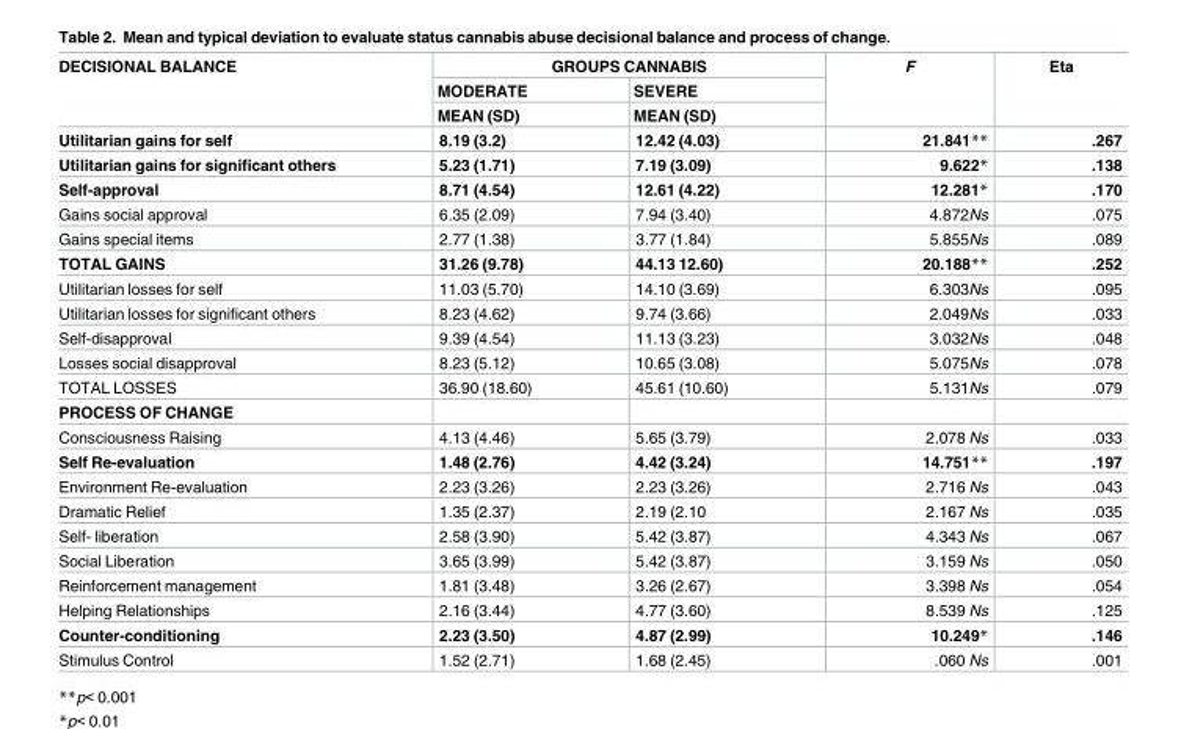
<table><thead><tr><td rowspan="3">DECISIONAL BALANCE</td><td colspan="2">GROUPS CANNABIS</td><td rowspan="3">F</td><td rowspan="3">Eta</td></tr><tr><td rowspan="2">MODERATE MEAN (SD)</td><td rowspan="2">SEVERE MEAN (SD)</td></tr><tr></tr></thead><tbody><tr><td>Utilitarian gains for self</td><td>8.19 (3.2)</td><td>12.42 (4.03)</td><td>21.841**</td><td>.267</td></tr><tr><td>Utilitarian gains for significant others</td><td>5.23 (1.71)</td><td>7.19 (3.09)</td><td>9.622*</td><td>.138</td></tr><tr><td>Self-approval</td><td>8.71 (4.54)</td><td>12.61 (4.22)</td><td>12.281*</td><td>.170</td></tr><tr><td>Gains social approval</td><td>6.35 (2.09)</td><td>7.94 (3.40)</td><td>4.872Ns</td><td>.075</td></tr><tr><td>Gains special items</td><td>2.77 (1.38)</td><td>3.77 (1.84)</td><td>5.855Ns</td><td>.089</td></tr><tr><td>TOTAL GAINS</td><td>31.26 (9.78)</td><td>44.13 12.60)</td><td>20.188**</td><td>.252</td></tr><tr><td>Utilitarian losses for self</td><td>11.03 (5.70)</td><td>14.10 (3.69)</td><td>6.303Ns</td><td>.095</td></tr><tr><td>Utilitarian losses for significant others</td><td>8.23 (4.62)</td><td>9.74 (3.66)</td><td>2.049Ns</td><td>.033</td></tr><tr><td>Self-disapproval</td><td>9.39 (4.54)</td><td>11.13 (3.23)</td><td>3.032Ns</td><td>.048</td></tr><tr><td>Losses social disapproval</td><td>8.23 (5.12)</td><td>10.65 (3.08)</td><td>5.075Ns</td><td>.078</td></tr><tr><td>TOTAL LOSSES</td><td>36.90 (18.60)</td><td>45.61 (10.60)</td><td>5.131Ns</td><td>.079</td></tr><tr><td colspan="5">PROCESS OF CHANGE</td></tr><tr><td>Consciousness Raising</td><td>4.13 (4.46)</td><td>5.65 (3.79)</td><td>2.078 Ns</td><td>.033</td></tr><tr><td>Self Re-evaluation</td><td>1.48 (2.76)</td><td>4.42 (3.24)</td><td>14.751**</td><td>.197</td></tr><tr><td>Environment Re-evaluation</td><td>2.23 (3.26)</td><td>2.23 (3.26)</td><td>2.716 Ns</td><td>.043</td></tr><tr><td>Dramatic Relief</td><td>1.35 (2.37)</td><td>2.19 (2.10</td><td>2.167 Ns</td><td>.035</td></tr><tr><td>Self- liberation</td><td>2.58 (3.90)</td><td>5.42 (3.87)</td><td>4.343 Ns</td><td>.067</td></tr><tr><td>Social Liberation</td><td>3.65 (3.99)</td><td>5.42 (3.87)</td><td>3.159 Ns</td><td>.050</td></tr><tr><td>Reinforcement management</td><td>1.81 (3.48)</td><td>3.26 (2.67)</td><td>3.398 Ns</td><td>.054</td></tr><tr><td>Helping Relationships</td><td>2.16 (3.44)</td><td>4.77 (3.60)</td><td>8.539 Ns</td><td>.125</td></tr><tr><td>Counter-conditioning</td><td>2.23 (3.50)</td><td>4.87 (2.99)</td><td>10.249*</td><td>.146</td></tr><tr><td>Stimulus Control</td><td>1.52 (2.71)</td><td>1.68 (2.45)</td><td>.060 Ns</td><td>.001</td></tr></tbody></table>